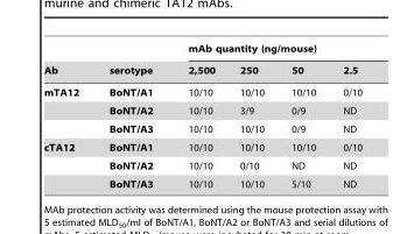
<table><thead><tr><td rowspan="2">Ab</td><td rowspan="2">serotype</td><td colspan="4">mAb quantity (ng/mouse)</td></tr><tr><td>2,500</td><td>250</td><td>50</td><td>2.5</td></tr></thead><tbody><tr><td rowspan="3">mTA12</td><td>BoNT/A1</td><td>10/10</td><td>10/10</td><td>10/10</td><td>0/10</td></tr><tr><td>BoNT/A2</td><td>10/10</td><td>3/9</td><td>0/9</td><td>ND</td></tr><tr><td>BoNT/A3</td><td>10/10</td><td>10/10</td><td>0/9</td><td>ND</td></tr><tr><td rowspan="3">cTA12</td><td>BoNT/A1</td><td>10/10</td><td>10/10</td><td>10/10</td><td>0/10</td></tr><tr><td>BoNT/A2</td><td>10/10</td><td>0/10</td><td>ND</td><td>ND</td></tr><tr><td>BoNT/A3</td><td>10/10</td><td>10/10</td><td>5/10</td><td>ND</td></tr></tbody></table>